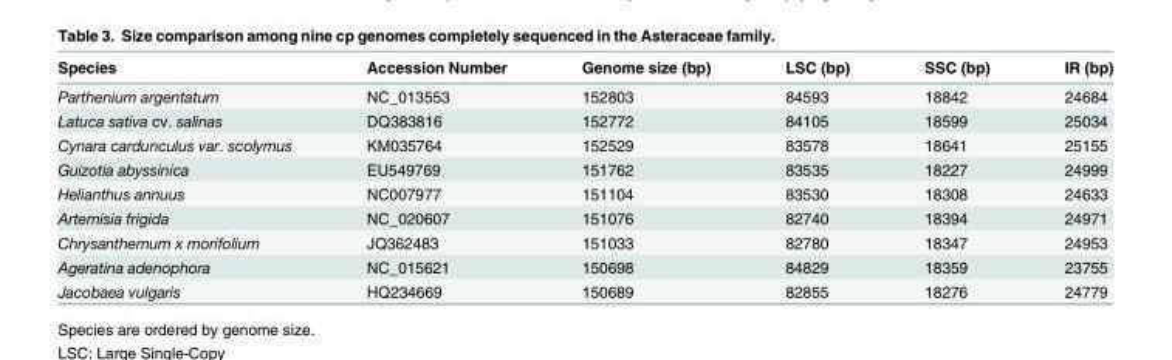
<table><thead><tr><td>Species</td><td>Accession Number</td><td>Genome size (bp)</td><td>LSC (bp)</td><td>SSC (bp)</td><td>IR (bp)</td></tr></thead><tbody><tr><td>Parthenium argentatum</td><td>NC_013553</td><td>152803</td><td>84593</td><td>18842</td><td>24684</td></tr><tr><td>Latuca sativa cv. salinas</td><td>DQ383816</td><td>152772</td><td>84105</td><td>18599</td><td>25034</td></tr><tr><td>Cynara cardunculus var. scolymus</td><td>KM035764</td><td>152529</td><td>83578</td><td>18641</td><td>25155</td></tr><tr><td>Guizotia abyssinica</td><td>EU549769</td><td>151762</td><td>83535</td><td>18227</td><td>24999</td></tr><tr><td>Helianthus annuus</td><td>NC007977</td><td>151104</td><td>83530</td><td>18308</td><td>24633</td></tr><tr><td>Artemisia frigida</td><td>NC_020607</td><td>151076</td><td>82740</td><td>18394</td><td>24971</td></tr><tr><td>Chrysanthemum x morifolium</td><td>JQ362483</td><td>151033</td><td>82780</td><td>18347</td><td>24953</td></tr><tr><td>Ageratina adenophora</td><td>NC_015621</td><td>150698</td><td>84829</td><td>18359</td><td>23755</td></tr><tr><td>Jacobaea vulgaris</td><td>HQ234669</td><td>150689</td><td>82855</td><td>18276</td><td>24779</td></tr></tbody></table>